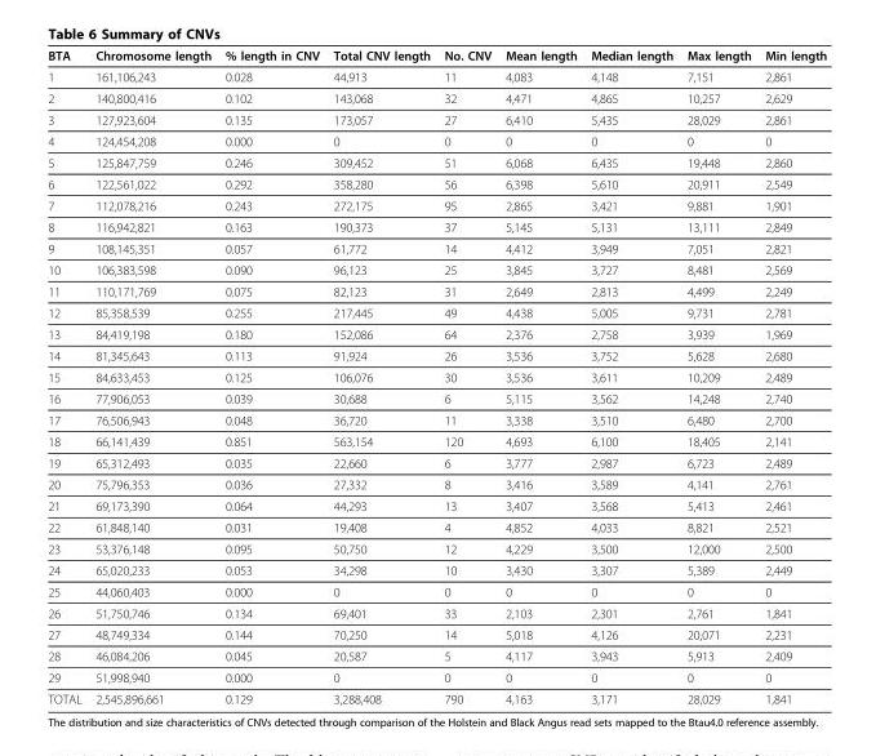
<table><thead><tr><td>BTA</td><td>Chromosome length</td><td>% length in CNV</td><td>Total CNV length</td><td>No. CNV</td><td>Mean length</td><td>Median length</td><td>Max length</td><td>Min length</td></tr></thead><tbody><tr><td>1</td><td>161,106,243</td><td>0.028</td><td>44,913</td><td>11</td><td>4,083</td><td>4,148</td><td>7,151</td><td>2,861</td></tr><tr><td>2</td><td>140,800,416</td><td>0.102</td><td>143,068</td><td>32</td><td>4,471</td><td>4,865</td><td>10,257</td><td>2,629</td></tr><tr><td>3</td><td>127,923,604</td><td>0.135</td><td>173,057</td><td>27</td><td>6,410</td><td>5,435</td><td>28,029</td><td>2,861</td></tr><tr><td>4</td><td>124,454,208</td><td>0.000</td><td>0</td><td>0</td><td>0</td><td>0</td><td>0</td><td>0</td></tr><tr><td>5</td><td>125,847,759</td><td>0.246</td><td>309,452</td><td>51</td><td>6,068</td><td>6,435</td><td>19,448</td><td>2,860</td></tr><tr><td>6</td><td>122,561,022</td><td>0.292</td><td>358,280</td><td>56</td><td>6,398</td><td>5,610</td><td>20,911</td><td>2,549</td></tr><tr><td>7</td><td>112,078,216</td><td>0.243</td><td>272,175</td><td>95</td><td>2,865</td><td>3,421</td><td>9,881</td><td>1,901</td></tr><tr><td>8</td><td>116,942,821</td><td>0.163</td><td>190,373</td><td>37</td><td>5,145</td><td>5,131</td><td>13,111</td><td>2,849</td></tr><tr><td>9</td><td>108,145,351</td><td>0.057</td><td>61,772</td><td>14</td><td>4,412</td><td>3,949</td><td>7,051</td><td>2,821</td></tr><tr><td>10</td><td>106,383,598</td><td>0.090</td><td>96,123</td><td>25</td><td>3,845</td><td>3,727</td><td>8,481</td><td>2,569</td></tr><tr><td>11</td><td>110,171,769</td><td>0.075</td><td>82,123</td><td>31</td><td>2,649</td><td>2,813</td><td>4,499</td><td>2,249</td></tr><tr><td>12</td><td>85,358,539</td><td>0.255</td><td>217,445</td><td>49</td><td>4,438</td><td>5,005</td><td>9,731</td><td>2,781</td></tr><tr><td>13</td><td>84,419,198</td><td>0.180</td><td>152,086</td><td>64</td><td>2,376</td><td>2,758</td><td>3,939</td><td>1,969</td></tr><tr><td>14</td><td>81,345,643</td><td>0.113</td><td>91,924</td><td>26</td><td>3,536</td><td>3,752</td><td>5,628</td><td>2,680</td></tr><tr><td>15</td><td>84,633,453</td><td>0.125</td><td>106,076</td><td>30</td><td>3,536</td><td>3,611</td><td>10,209</td><td>2,489</td></tr><tr><td>16</td><td>77,906,053</td><td>0.039</td><td>30,688</td><td>6</td><td>5,115</td><td>3,562</td><td>14,248</td><td>2,740</td></tr><tr><td>17</td><td>76,506,943</td><td>0.048</td><td>36,720</td><td>11</td><td>3,338</td><td>3,510</td><td>6,480</td><td>2,700</td></tr><tr><td>18</td><td>66,141,439</td><td>0.851</td><td>563,154</td><td>120</td><td>4,693</td><td>6,100</td><td>18,405</td><td>2,141</td></tr><tr><td>19</td><td>65,312,493</td><td>0.035</td><td>22,660</td><td>6</td><td>3,777</td><td>2,987</td><td>6,723</td><td>2,489</td></tr><tr><td>20</td><td>75,796,353</td><td>0.036</td><td>27,332</td><td>8</td><td>3,416</td><td>3,589</td><td>4,141</td><td>2,761</td></tr><tr><td>21</td><td>69,173,390</td><td>0.064</td><td>44,293</td><td>13</td><td>3,407</td><td>3,568</td><td>5,413</td><td>2,461</td></tr><tr><td>22</td><td>61,848,140</td><td>0.031</td><td>19,408</td><td>4</td><td>4,852</td><td>4,033</td><td>8,821</td><td>2,521</td></tr><tr><td>23</td><td>53,376,148</td><td>0.095</td><td>50,750</td><td>12</td><td>4,229</td><td>3,500</td><td>12,000</td><td>2,500</td></tr><tr><td>24</td><td>65,020,233</td><td>0.053</td><td>34,298</td><td>10</td><td>3,430</td><td>3,307</td><td>5,389</td><td>2,449</td></tr><tr><td>25</td><td>44,060,403</td><td>0.000</td><td>0</td><td>0</td><td>0</td><td>0</td><td>0</td><td>0</td></tr><tr><td>26</td><td>51,750,746</td><td>0.134</td><td>69,401</td><td>33</td><td>2,103</td><td>2,301</td><td>2,761</td><td>1,841</td></tr><tr><td>27</td><td>48,749,334</td><td>0.144</td><td>70,250</td><td>14</td><td>5,018</td><td>4,126</td><td>20,071</td><td>2,231</td></tr><tr><td>28</td><td>46,084,206</td><td>0.045</td><td>20,587</td><td>5</td><td>4,117</td><td>3,943</td><td>5,913</td><td>2,409</td></tr><tr><td>29</td><td>51,998,940</td><td>0.000</td><td>0</td><td>0</td><td>0</td><td>0</td><td>0</td><td>0</td></tr><tr><td>TOTAL</td><td>2,545,896,661</td><td>0.129</td><td>3,288,408</td><td>790</td><td>4,163</td><td>3,171</td><td>28,029</td><td>1,841</td></tr></tbody></table>